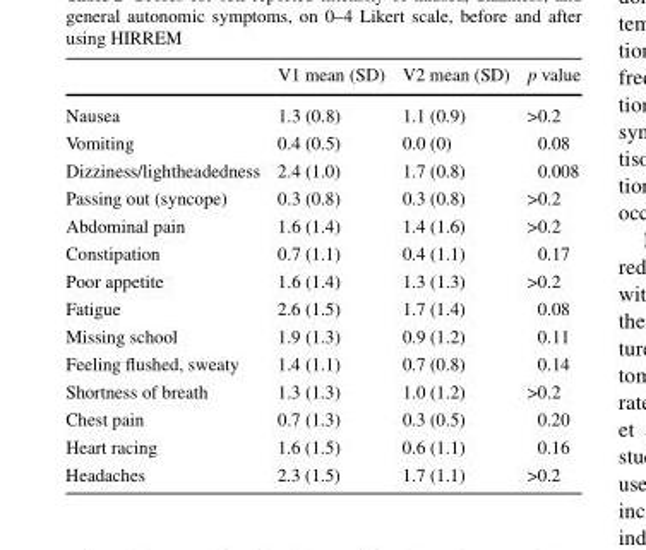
<table><thead><tr><td></td><td>V1 mean (SD)</td><td>V2 mean (SD)</td><td>p value</td></tr></thead><tbody><tr><td>Nausea</td><td>1.3 (0.8)</td><td>1.1 (0.9)</td><td>&gt;0.2</td></tr><tr><td>Vomiting</td><td>0.4 (0.5)</td><td>0.0 (0)</td><td>0.08</td></tr><tr><td>Dizziness/lightheadedness</td><td>2.4 (1.0)</td><td>1.7 (0.8)</td><td>0.008</td></tr><tr><td>Passing out (syncope)</td><td>0.3 (0.8)</td><td>0.3 (0.8)</td><td>&gt;0.2</td></tr><tr><td>Abdominal pain</td><td>1.6 (1.4)</td><td>1.4 (1.6)</td><td>&gt;0.2</td></tr><tr><td>Constipation</td><td>0.7 (1.1)</td><td>0.4 (1.1)</td><td>0.17</td></tr><tr><td>Poor appetite</td><td>1.6 (1.4)</td><td>1.3 (1.3)</td><td>&gt;0.2</td></tr><tr><td>Fatigue</td><td>2.6 (1.5)</td><td>1.7 (1.4)</td><td>0.08</td></tr><tr><td>Missing school</td><td>1.9 (1.3)</td><td>0.9 (1.2)</td><td>0.11</td></tr><tr><td>Feeling flushed, sweaty</td><td>1.4 (1.1)</td><td>0.7 (0.8)</td><td>0.14</td></tr><tr><td>Shortness of breath</td><td>1.3 (1.3)</td><td>1.0 (1.2)</td><td>&gt;0.2</td></tr><tr><td>Chest pain</td><td>0.7 (1.3)</td><td>0.3 (0.5)</td><td>0.20</td></tr><tr><td>Heart racing</td><td>1.6 (1.5)</td><td>0.6 (1.1)</td><td>0.16</td></tr><tr><td>Headaches</td><td>2.3 (1.5)</td><td>1.7 (1.1)</td><td>&gt;0.2</td></tr></tbody></table>